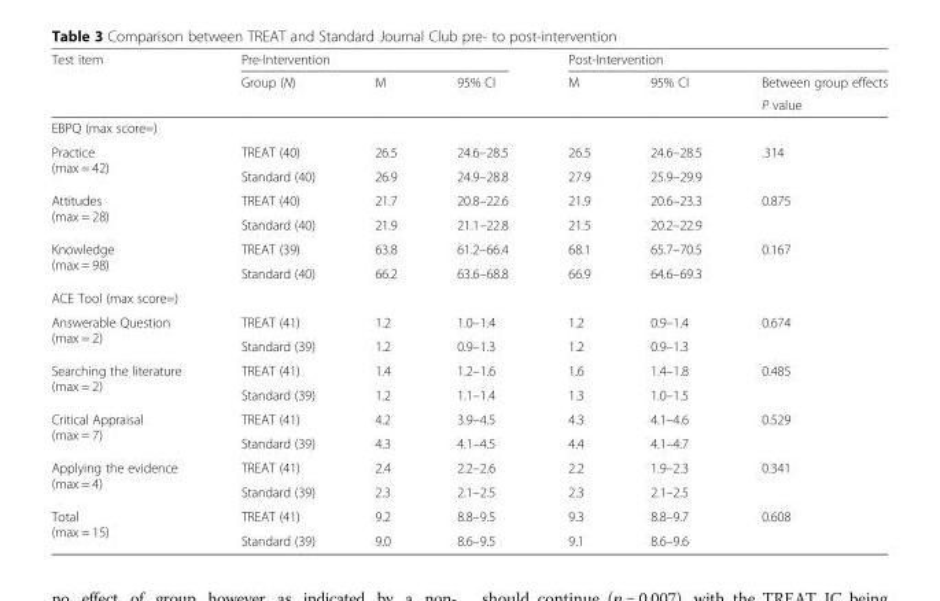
<table><thead><tr><td rowspan="3">Test item</td><td colspan="3">Pre-Intervention</td><td colspan="3">Post-Intervention</td></tr><tr><td rowspan="2">Group (N)</td><td rowspan="2">M</td><td rowspan="2">95% CI</td><td rowspan="2">M</td><td rowspan="2">95% CI</td><td rowspan="2">Between group effects P value</td></tr><tr></tr></thead><tbody><tr><td colspan="7">EBPQ (max score=)</td></tr><tr><td rowspan="2">Practice (max = 42)</td><td>TREAT (40)</td><td>26.5</td><td>24.6–28.5</td><td>26.5</td><td>24.6–28.5</td><td rowspan="2">.314</td></tr><tr><td>Standard (40)</td><td>26.9</td><td>24.9–28.8</td><td>27.9</td><td>25.9–29.9</td></tr><tr><td rowspan="2">Attitudes (max = 28)</td><td>TREAT (40)</td><td>21.7</td><td>20.8–22.6</td><td>21.9</td><td>20.6–23.3</td><td rowspan="2">0.875</td></tr><tr><td>Standard (40)</td><td>21.9</td><td>21.1–22.8</td><td>21.5</td><td>20.2–22.9</td></tr><tr><td rowspan="2">Knowledge (max = 98)</td><td>TREAT (39)</td><td>63.8</td><td>61.2–66.4</td><td>68.1</td><td>65.7–70.5</td><td rowspan="2">0.167</td></tr><tr><td>Standard (40)</td><td>66.2</td><td>63.6–68.8</td><td>66.9</td><td>64.6–69.3</td></tr><tr><td colspan="7">ACE Tool (max score=)</td></tr><tr><td rowspan="2">Answerable Question (max = 2)</td><td>TREAT (41)</td><td>1.2</td><td>1.0–1.4</td><td>1.2</td><td>0.9–1.4</td><td rowspan="2">0.674</td></tr><tr><td>Standard (39)</td><td>1.2</td><td>0.9–1.3</td><td>1.2</td><td>0.9–1.3</td></tr><tr><td rowspan="2">Searching the literature (max = 2)</td><td>TREAT (41)</td><td>1.4</td><td>1.2–1.6</td><td>1.6</td><td>1.4–1.8</td><td rowspan="2">0.485</td></tr><tr><td>Standard (39)</td><td>1.2</td><td>1.1–1.4</td><td>1.3</td><td>1.0–1.5</td></tr><tr><td rowspan="2">Critical Appraisal (max = 7)</td><td>TREAT (41)</td><td>4.2</td><td>3.9–4.5</td><td>4.3</td><td>4.1–4.6</td><td rowspan="2">0.529</td></tr><tr><td>Standard (39)</td><td>4.3</td><td>4.1–4.5</td><td>4.4</td><td>4.1–4.7</td></tr><tr><td rowspan="2">Applying the evidence (max = 4)</td><td>TREAT (41)</td><td>2.4</td><td>2.2–2.6</td><td>2.2</td><td>1.9–2.3</td><td rowspan="2">0.341</td></tr><tr><td>Standard (39)</td><td>2.3</td><td>2.1–2.5</td><td>2.3</td><td>2.1–2.5</td></tr><tr><td rowspan="2">Total (max = 15)</td><td>TREAT (41)</td><td>9.2</td><td>8.8–9.5</td><td>9.3</td><td>8.8–9.7</td><td rowspan="2">0.608</td></tr><tr><td>Standard (39)</td><td>9.0</td><td>8.6–9.5</td><td>9.1</td><td>8.6–9.6</td></tr></tbody></table>